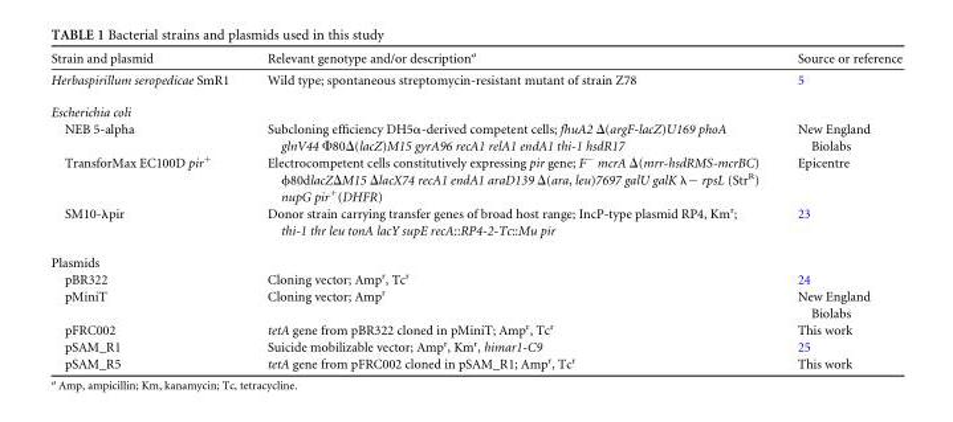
<table><thead><tr><td>Strain and plasmid</td><td>Relevant genotype and/or description<sup>a</sup></td><td>Source or reference</td></tr></thead><tbody><tr><td>Herbaspirillum seropedicae SmR1</td><td>Wild type; spontaneous streptomycin-resistant mutant of strain Z78</td><td>5</td></tr><tr><td colspan="3">Escherichia coli</td></tr><tr><td>NEB 5-alpha</td><td>Subcloning efficiency DH5α-derived competent cells; fhuA2 Δ(argF-lacZ)U169 phoA glnV44 Φ80Δ(lacZ)M15 gyrA96 recA1 relA1 endA1 thi-1 hsdR17</td><td>New England Biolabs</td></tr><tr><td>TransforMax EC100D pir<sup>+</sup></td><td>Electrocompetent cells constitutively expressing pir gene; F<sup>−</sup> mcrA Δ(mrr-hsdRMS-mcrBC) ϕ80dlacZΔM15 ΔlacX74 recA1 endA1 araD139 Δ(ara, leu)7697 galU galK λ− rpsL (Str<sup>R</sup>) nupG pir<sup>+</sup>(DHFR)</td><td>Epicentre</td></tr><tr><td>SM10-λpir</td><td>Donor strain carrying transfer genes of broad host range; IncP-type plasmid RP4, Km<sup>r</sup>; thi-1 thr leu tonA lacY supE recA::RP4-2-Tc::Mu pir</td><td>23</td></tr><tr><td colspan="3">Plasmids</td></tr><tr><td>pBR322</td><td>Cloning vector; Amp<sup>r</sup>, Tc<sup>r</sup></td><td>24</td></tr><tr><td>pMiniT</td><td>Cloning vector; Amp<sup>r</sup></td><td>New England Biolabs</td></tr><tr><td>pFRC002</td><td>tetA gene from pBR322 cloned in pMiniT; Amp<sup>r</sup>, Tc<sup>r</sup></td><td>This work</td></tr><tr><td>pSAM_R1</td><td>Suicide mobilizable vector; Amp<sup>r</sup>, Km<sup>r</sup>, himar1-C9</td><td>25</td></tr><tr><td>pSAM_R5</td><td>tetA gene from pFRC002 cloned in pSAM_R1; Amp<sup>r</sup>, Tc<sup>r</sup></td><td>This work</td></tr></tbody></table>